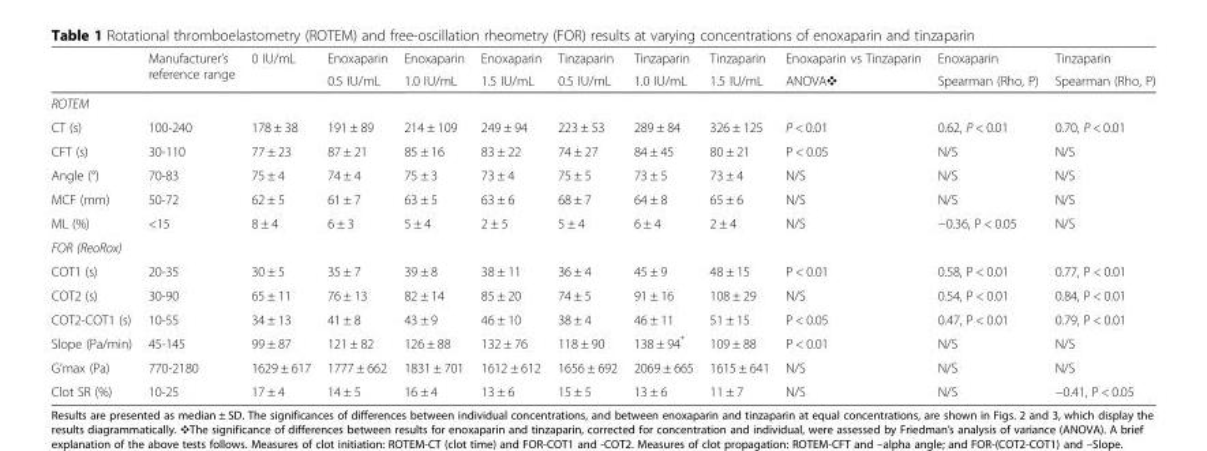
<table><thead><tr><td rowspan="2"></td><td rowspan="2">Manufacturer’s reference range</td><td rowspan="2">0 IU/mL</td><td rowspan="2">Enoxaparin 0.5 IU/mL</td><td rowspan="2">Enoxaparin 1.0 IU/mL</td><td rowspan="2">Enoxaparin 1.5 IU/mL</td><td rowspan="2">Tinzaparin 0.5 IU/mL</td><td rowspan="2">Tinzaparin 1.0 IU/mL</td><td rowspan="2">Tinzaparin 1.5 IU/mL</td><td rowspan="2">Enoxaparin vs Tinzaparin ANOVA❖</td><td rowspan="2">Enoxaparin Spearman (Rho, P)</td><td rowspan="2">Tinzaparin Spearman (Rho, P)</td></tr><tr></tr></thead><tbody><tr><td colspan="12">ROTEM</td></tr><tr><td>CT (s)</td><td>100-240</td><td>178 ± 38</td><td>191 ± 89</td><td>214 ± 109</td><td>249 ± 94</td><td>223 ± 53</td><td>289 ± 84</td><td>326 ± 125</td><td>P &lt; 0.01</td><td>0.62, P &lt; 0.01</td><td>0.70, P &lt; 0.01</td></tr><tr><td>CFT (s)</td><td>30-110</td><td>77 ± 23</td><td>87 ± 21</td><td>85 ± 16</td><td>83 ± 22</td><td>74 ± 27</td><td>84 ± 45</td><td>80 ± 21</td><td>P &lt; 0.05</td><td>N/S</td><td>N/S</td></tr><tr><td>Angle (°)</td><td>70-83</td><td>75 ± 4</td><td>74 ± 4</td><td>75 ± 3</td><td>73 ± 4</td><td>75 ± 5</td><td>73 ± 5</td><td>73 ± 4</td><td>N/S</td><td>N/S</td><td>N/S</td></tr><tr><td>MCF (mm)</td><td>50-72</td><td>62 ± 5</td><td>61 ± 7</td><td>63 ± 5</td><td>63 ± 6</td><td>68 ± 7</td><td>64 ± 8</td><td>65 ± 6</td><td>N/S</td><td>N/S</td><td>N/S</td></tr><tr><td>ML (%)</td><td>&lt;15</td><td>8 ± 4</td><td>6 ± 3</td><td>5 ± 4</td><td>2 ± 5</td><td>5 ± 4</td><td>6 ± 4</td><td>2 ± 4</td><td>N/S</td><td>−0.36, P &lt; 0.05</td><td>N/S</td></tr><tr><td colspan="12">FOR (ReoRox)</td></tr><tr><td>COT1 (s)</td><td>20-35</td><td>30 ± 5</td><td>35 ± 7</td><td>39 ± 8</td><td>38 ± 11</td><td>36 ± 4</td><td>45 ± 9</td><td>48 ± 15</td><td>P &lt; 0.01</td><td>0.58, P &lt; 0.01</td><td>0.77, P &lt; 0.01</td></tr><tr><td>COT2 (s)</td><td>30-90</td><td>65 ± 11</td><td>76 ± 13</td><td>82 ± 14</td><td>85 ± 20</td><td>74 ± 5</td><td>91 ± 16</td><td>108 ± 29</td><td>N/S</td><td>0.54, P &lt; 0.01</td><td>0.84, P &lt; 0.01</td></tr><tr><td>COT2-COT1 (s)</td><td>10-55</td><td>34 ± 13</td><td>41 ± 8</td><td>43 ± 9</td><td>46 ± 10</td><td>38 ± 4</td><td>46 ± 11</td><td>51 ± 15</td><td>P &lt; 0.05</td><td>0.47, P &lt; 0.01</td><td>0.79, P &lt; 0.01</td></tr><tr><td>Slope (Pa/min)</td><td>45-145</td><td>99 ± 87</td><td>121 ± 82</td><td>126 ± 88</td><td>132 ± 76</td><td>118 ± 90</td><td>138 ± 94*</td><td>109 ± 88</td><td>P &lt; 0.01</td><td>N/S</td><td>N/S</td></tr><tr><td>G’max (Pa)</td><td>770-2180</td><td>1629 ± 617</td><td>1777 ± 662</td><td>1831 ± 701</td><td>1612 ± 612</td><td>1656 ± 692</td><td>2069 ± 665</td><td>1615 ± 641</td><td>N/S</td><td>N/S</td><td>N/S</td></tr><tr><td>Clot SR (%)</td><td>10-25</td><td>17 ± 4</td><td>14 ± 5</td><td>16 ± 4</td><td>13 ± 6</td><td>15 ± 5</td><td>13 ± 6</td><td>11 ± 7</td><td>N/S</td><td>N/S</td><td>−0.41, P &lt; 0.05</td></tr></tbody></table>